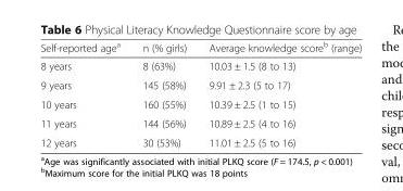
<table><thead><tr><td>Self-reported age<sup>a</sup></td><td>n (% girls)</td><td>Average knowledge score<sup>b</sup> (range)</td></tr></thead><tbody><tr><td>8 years</td><td>8 (63%)</td><td>10.03 ± 1.5 (8 to 13)</td></tr><tr><td>9 years</td><td>145 (58%)</td><td>9.91 ± 2.3 (5 to 17)</td></tr><tr><td>10 years</td><td>160 (55%)</td><td>10.39 ± 2.5 (1 to 15)</td></tr><tr><td>11 years</td><td>144 (56%)</td><td>10.89 ± 2.5 (4 to 16)</td></tr><tr><td>12 years</td><td>30 (53%)</td><td>11.01 ± 2.5 (5 to 16)</td></tr></tbody></table>